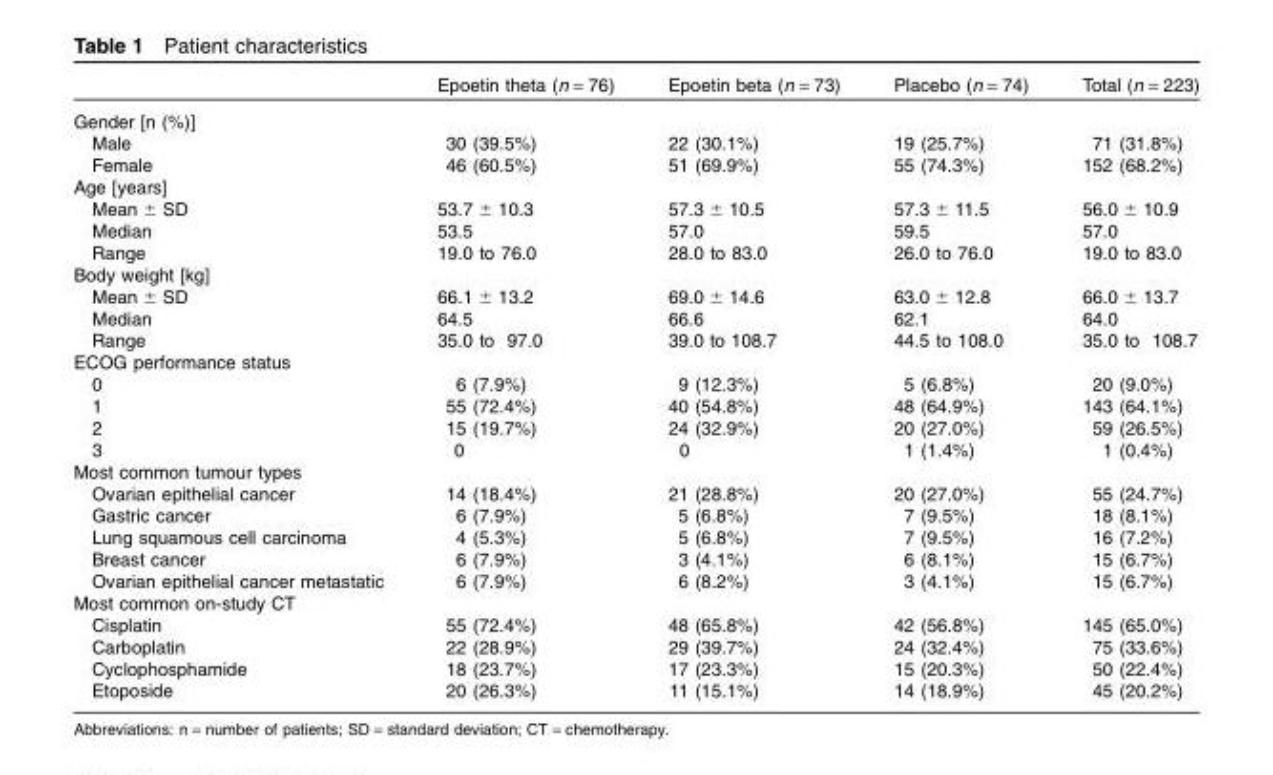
<table><thead><tr><td></td><td>Epoetin theta (n = 76)</td><td>Epoetin beta (n = 73)</td><td>Placebo (n = 74)</td><td>Total (n = 223)</td></tr></thead><tbody><tr><td colspan="5">Gender [n (%)]</td></tr><tr><td>Male</td><td>30 (39.5%)</td><td>22 (30.1%)</td><td>19 (25.7%)</td><td>71 (31.8%)</td></tr><tr><td>Female</td><td>46 (60.5%)</td><td>51 (69.9%)</td><td>55 (74.3%)</td><td>152 (68.2%)</td></tr><tr><td colspan="5">Age [years]</td></tr><tr><td>Mean ± SD</td><td>53.7 ± 10.3</td><td>57.3 ± 10.5</td><td>57.3 ± 11.5</td><td>56.0 ± 10.9</td></tr><tr><td>Median</td><td>53.5</td><td>57.0</td><td>59.5</td><td>57.0</td></tr><tr><td>Range</td><td>19.0 to 76.0</td><td>28.0 to 83.0</td><td>26.0 to 76.0</td><td>19.0 to 83.0</td></tr><tr><td colspan="5">Body weight [kg]</td></tr><tr><td>Mean ± SD</td><td>66.1 ± 13.2</td><td>69.0 ± 14.6</td><td>63.0 ± 12.8</td><td>66.0 ± 13.7</td></tr><tr><td>Median</td><td>64.5</td><td>66.6</td><td>62.1</td><td>64.0</td></tr><tr><td>Range</td><td>35.0 to 97.0</td><td>39.0 to 108.7</td><td>44.5 to 108.0</td><td>35.0 to 108.7</td></tr><tr><td colspan="5">ECOG performance status</td></tr><tr><td>0</td><td>6 (7.9%)</td><td>9 (12.3%)</td><td>5 (6.8%)</td><td>20 (9.0%)</td></tr><tr><td>1</td><td>55 (72.4%)</td><td>40 (54.8%)</td><td>48 (64.9%)</td><td>143 (64.1%)</td></tr><tr><td>2</td><td>15 (19.7%)</td><td>24 (32.9%)</td><td>20 (27.0%)</td><td>59 (26.5%)</td></tr><tr><td>3</td><td>0</td><td>0</td><td>1 (1.4%)</td><td>1 (0.4%)</td></tr><tr><td colspan="5">Most common tumour types</td></tr><tr><td>Ovarian epithelial cancer</td><td>14 (18.4%)</td><td>21 (28.8%)</td><td>20 (27.0%)</td><td>55 (24.7%)</td></tr><tr><td>Gastric cancer</td><td>6 (7.9%)</td><td>5 (6.8%)</td><td>7 (9.5%)</td><td>18 (8.1%)</td></tr><tr><td>Lung squamous cell carcinoma</td><td>4 (5.3%)</td><td>5 (6.8%)</td><td>7 (9.5%)</td><td>16 (7.2%)</td></tr><tr><td>Breast cancer</td><td>6 (7.9%)</td><td>3 (4.1%)</td><td>6 (8.1%)</td><td>15 (6.7%)</td></tr><tr><td>Ovarian epithelial cancer metastatic</td><td>6 (7.9%)</td><td>6 (8.2%)</td><td>3 (4.1%)</td><td>15 (6.7%)</td></tr><tr><td colspan="5">Most common on-study CT</td></tr><tr><td>Cisplatin</td><td>55 (72.4%)</td><td>48 (65.8%)</td><td>42 (56.8%)</td><td>145 (65.0%)</td></tr><tr><td>Carboplatin</td><td>22 (28.9%)</td><td>29 (39.7%)</td><td>24 (32.4%)</td><td>75 (33.6%)</td></tr><tr><td>Cyclophosphamide</td><td>18 (23.7%)</td><td>17 (23.3%)</td><td>15 (20.3%)</td><td>50 (22.4%)</td></tr><tr><td>Etoposide</td><td>20 (26.3%)</td><td>11 (15.1%)</td><td>14 (18.9%)</td><td>45 (20.2%)</td></tr></tbody></table>